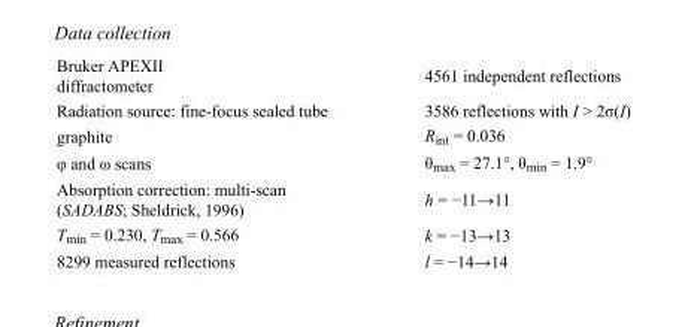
<table><tbody><tr><td>Bruker APEXII diffractometer</td><td>4561 independent reflections</td></tr><tr><td>Radiation source: fine-focus sealed tube</td><td>3586 reflections with I &gt; 2σ(I)</td></tr><tr><td>graphite</td><td>R<sub>int</sub> = 0.036</td></tr><tr><td>φ and ω scans</td><td>θ<sub>max</sub> = 27.1°, θ<sub>min</sub> = 1.9°</td></tr><tr><td>Absorption correction: multi-scan (SADABS; Sheldrick, 1996)</td><td>h = −11→11</td></tr><tr><td>T<sub>min</sub> = 0.230, T<sub>max</sub> = 0.566</td><td>k = −13→13</td></tr><tr><td>8299 measured reflections</td><td>l = −14→14</td></tr></tbody></table>